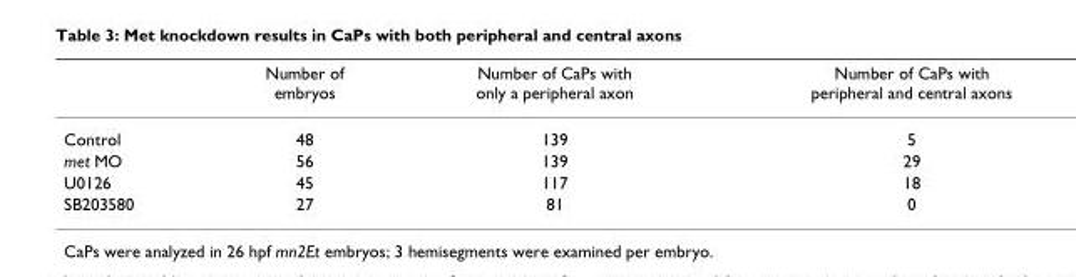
<table><thead><tr><td></td><td>Number of embryos</td><td>Number of CaPs with only a peripheral axon</td><td>Number of CaPs with peripheral and central axons</td></tr></thead><tbody><tr><td>Control</td><td>48</td><td>139</td><td>5</td></tr><tr><td>met MO</td><td>56</td><td>139</td><td>29</td></tr><tr><td>U0126</td><td>45</td><td>117</td><td>18</td></tr><tr><td>SB203580</td><td>27</td><td>81</td><td>0</td></tr></tbody></table>